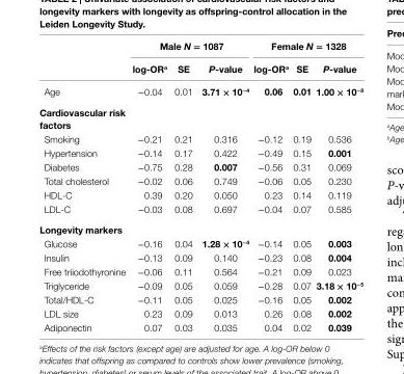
<table><thead><tr><td rowspan="2"></td><td colspan="3">Male N = 1087</td><td colspan="3">Female N = 1328</td></tr><tr><td>log-Or<sup>a</sup></td><td>se</td><td>P-value</td><td>log-Or<sup>a</sup></td><td>se</td><td>P-value</td></tr></thead><tbody><tr><td>Age</td><td>−0.04</td><td>0.01</td><td>3.71 × 10<sup>−4</sup></td><td>0.06</td><td>0.01</td><td>1.00 × 10<sup>−8</sup></td></tr><tr><td colspan="7">cardiovascular risk factors</td></tr><tr><td>Smoking</td><td>−0.21</td><td>0.21</td><td>0.316</td><td>−0.12</td><td>0.19</td><td>0.536</td></tr><tr><td>Hypertension</td><td>−0.14</td><td>0.17</td><td>0.422</td><td>−0.49</td><td>0.15</td><td>0.001</td></tr><tr><td>Diabetes</td><td>−0.75</td><td>0.28</td><td>0.007</td><td>−0.56</td><td>0.31</td><td>0.069</td></tr><tr><td>Total cholesterol</td><td>−0.02</td><td>0.06</td><td>0.749</td><td>−0.06</td><td>0.05</td><td>0.230</td></tr><tr><td>HDL-C</td><td>0.39</td><td>0.20</td><td>0.050</td><td>0.23</td><td>0.14</td><td>0.119</td></tr><tr><td>LDL-C</td><td>−0.03</td><td>0.08</td><td>0.697</td><td>−0.04</td><td>0.07</td><td>0.585</td></tr><tr><td colspan="7">longevity markers</td></tr><tr><td>Glucose</td><td>−0.16</td><td>0.04</td><td>1.28 × 10<sup>−4</sup></td><td>−0.14</td><td>0.05</td><td>0.003</td></tr><tr><td>Insulin</td><td>−0.13</td><td>0.09</td><td>0.140</td><td>−0.23</td><td>0.08</td><td>0.004</td></tr><tr><td>Free triiodothyronine</td><td>−0.06</td><td>0.11</td><td>0.564</td><td>−0.21</td><td>0.09</td><td>0.023</td></tr><tr><td>Triglyceride</td><td>−0.09</td><td>0.05</td><td>0.059</td><td>−0.28</td><td>0.07</td><td>3.18 × 10<sup>−5</sup></td></tr><tr><td>Total/HDL-C</td><td>−0.11</td><td>0.05</td><td>0.025</td><td>−0.16</td><td>0.05</td><td>0.002</td></tr><tr><td>LDL size</td><td>0.23</td><td>0.09</td><td>0.013</td><td>0.26</td><td>0.08</td><td>0.002</td></tr><tr><td>Adiponectin</td><td>0.07</td><td>0.03</td><td>0.035</td><td>0.04</td><td>0.02</td><td>0.039</td></tr></tbody></table>